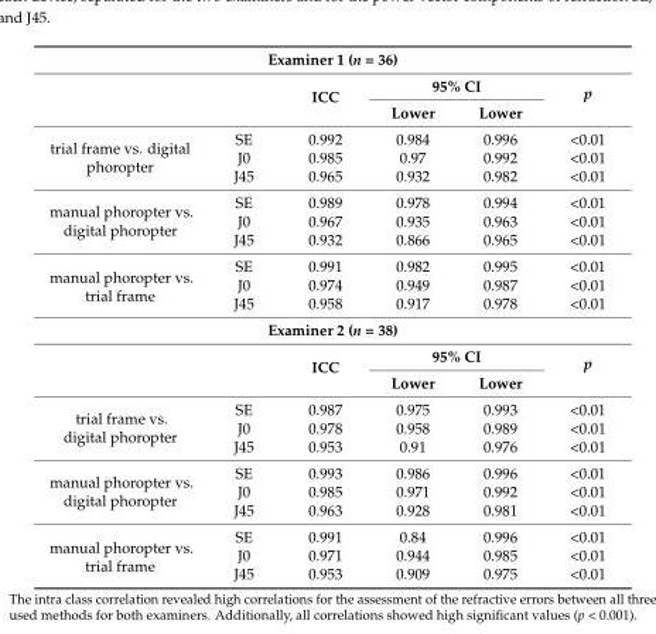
<table><tbody><tr><td colspan="6">Examiner 1 (n = 36)</td></tr><tr><td rowspan="2"></td><td rowspan="2"></td><td rowspan="2">ICC</td><td colspan="2">95% CI</td><td rowspan="2">p</td></tr><tr><td>Lower</td><td>Lower</td></tr><tr><td rowspan="3">trial frame vs. digital phoropter</td><td>SE</td><td>0.992</td><td>0.984</td><td>0.996</td><td>&lt;0.01</td></tr><tr><td>J0</td><td>0.985</td><td>0.97</td><td>0.992</td><td>&lt;0.01</td></tr><tr><td>J45</td><td>0.965</td><td>0.932</td><td>0.982</td><td>&lt;0.01</td></tr><tr><td rowspan="3">manual phoropter vs. digital phoropter</td><td>SE</td><td>0.989</td><td>0.978</td><td>0.994</td><td>&lt;0.01</td></tr><tr><td>J0</td><td>0.967</td><td>0.935</td><td>0.963</td><td>&lt;0.01</td></tr><tr><td>J45</td><td>0.932</td><td>0.866</td><td>0.965</td><td>&lt;0.01</td></tr><tr><td rowspan="3">manual phoropter vs. trial frame</td><td>SE</td><td>0.991</td><td>0.982</td><td>0.995</td><td>&lt;0.01</td></tr><tr><td>J0</td><td>0.974</td><td>0.949</td><td>0.987</td><td>&lt;0.01</td></tr><tr><td>J45</td><td>0.958</td><td>0.917</td><td>0.978</td><td>&lt;0.01</td></tr><tr><td colspan="6">Examiner 2 (n = 38)</td></tr><tr><td rowspan="2"></td><td rowspan="2"></td><td rowspan="2">ICC</td><td colspan="2">95% CI</td><td rowspan="2">p</td></tr><tr><td>Lower</td><td>Lower</td></tr><tr><td rowspan="3">trial frame vs. digital phoropter</td><td>SE</td><td>0.987</td><td>0.975</td><td>0.993</td><td>&lt;0.01</td></tr><tr><td>J0</td><td>0.978</td><td>0.958</td><td>0.989</td><td>&lt;0.01</td></tr><tr><td>J45</td><td>0.953</td><td>0.91</td><td>0.976</td><td>&lt;0.01</td></tr><tr><td rowspan="3">manual phoropter vs. digital phoropter</td><td>SE</td><td>0.993</td><td>0.986</td><td>0.996</td><td>&lt;0.01</td></tr><tr><td>J0</td><td>0.985</td><td>0.971</td><td>0.992</td><td>&lt;0.01</td></tr><tr><td>J45</td><td>0.963</td><td>0.928</td><td>0.981</td><td>&lt;0.01</td></tr><tr><td rowspan="3">manual phoropter vs. trial frame</td><td>SE</td><td>0.991</td><td>0.84</td><td>0.996</td><td>&lt;0.01</td></tr><tr><td>J0</td><td>0.971</td><td>0.944</td><td>0.985</td><td>&lt;0.01</td></tr><tr><td>J45</td><td>0.953</td><td>0.909</td><td>0.975</td><td>&lt;0.01</td></tr></tbody></table>